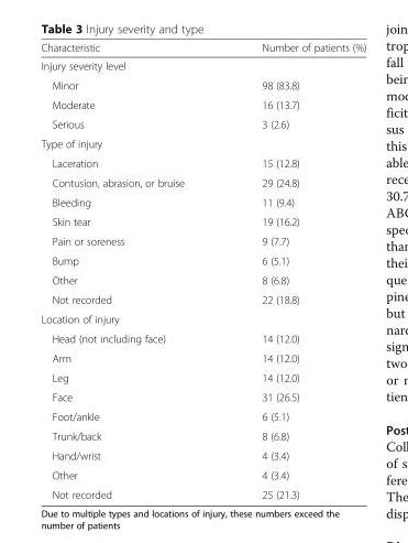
<table><thead><tr><td>Characteristic</td><td>Number of patients (%)</td></tr></thead><tbody><tr><td colspan="2">Injury severity level</td></tr><tr><td>Minor</td><td>98 (83.8)</td></tr><tr><td>Moderate</td><td>16 (13.7)</td></tr><tr><td>Serious</td><td>3 (2.6)</td></tr><tr><td colspan="2">Type of injury</td></tr><tr><td>Laceration</td><td>15 (12.8)</td></tr><tr><td>Contusion, abrasion, or bruise</td><td>29 (24.8)</td></tr><tr><td>Bleeding</td><td>11 (9.4)</td></tr><tr><td>Skin tear</td><td>19 (16.2)</td></tr><tr><td>Pain or soreness</td><td>9 (7.7)</td></tr><tr><td>Bump</td><td>6 (5.1)</td></tr><tr><td>Other</td><td>8 (6.8)</td></tr><tr><td>Not recorded</td><td>22 (18.8)</td></tr><tr><td colspan="2">Location of injury</td></tr><tr><td>Head (not including face)</td><td>14 (12.0)</td></tr><tr><td>Arm</td><td>14 (12.0)</td></tr><tr><td>Leg</td><td>14 (12.0)</td></tr><tr><td>Face</td><td>31 (26.5)</td></tr><tr><td>Foot/ankle</td><td>6 (5.1)</td></tr><tr><td>Trunk/back</td><td>8 (6.8)</td></tr><tr><td>Hand/wrist</td><td>4 (3.4)</td></tr><tr><td>Other</td><td>4 (3.4)</td></tr><tr><td>Not recorded</td><td>25 (21.3)</td></tr></tbody></table>